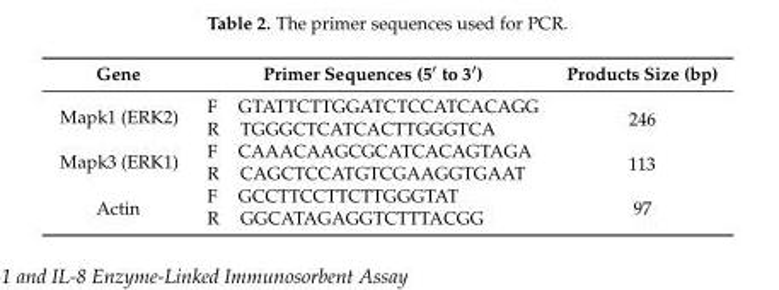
<table><thead><tr><td>Gene</td><td>Primer Sequences (5′ to 3′)</td><td>Products Size (bp)</td></tr></thead><tbody><tr><td rowspan="2">Mapk1 (ERK2)</td><td>F GTATTCTTGGATCTCCATCACAGG</td><td rowspan="2">246</td></tr><tr><td>R TGGGCTCATCACTTGGGTCA</td></tr><tr><td rowspan="2">Mapk3 (ERK1)</td><td>F CAAACAAGCGCATCACAGTAGA</td><td rowspan="2">113</td></tr><tr><td>R CAGCTCCATGTCGAAGGTGAAT</td></tr><tr><td rowspan="2">Actin</td><td>F GCCTTCCTTCTTGGGTAT</td><td rowspan="2">97</td></tr><tr><td>R GGCATAGAGGTCTTTACGG</td></tr></tbody></table>